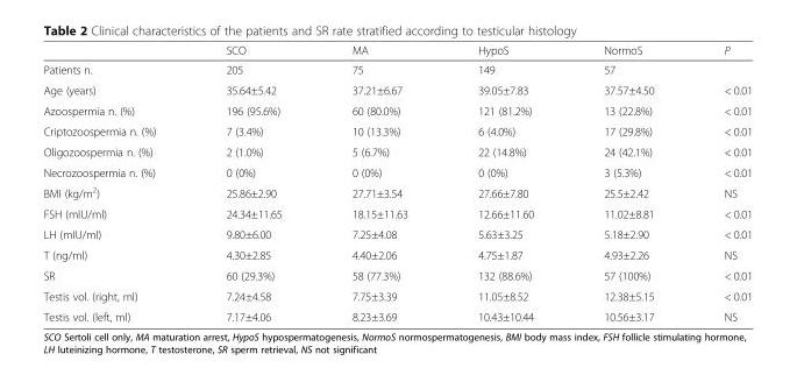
<table><thead><tr><td></td><td>SCO</td><td>MA</td><td>HypoS</td><td>NormoS</td><td>P</td></tr></thead><tbody><tr><td>Patients n.</td><td>205</td><td>75</td><td>149</td><td>57</td><td></td></tr><tr><td>Age (years)</td><td>35.64±5.42</td><td>37.21±6.67</td><td>39.05±7.83</td><td>37.57±4.50</td><td>&lt; 0.01</td></tr><tr><td>Azoospermia n. (%)</td><td>196 (95.6%)</td><td>60 (80.0%)</td><td>121 (81.2%)</td><td>13 (22.8%)</td><td>&lt; 0.01</td></tr><tr><td>Criptozoospermia n. (%)</td><td>7 (3.4%)</td><td>10 (13.3%)</td><td>6 (4.0%)</td><td>17 (29.8%)</td><td>&lt; 0.01</td></tr><tr><td>Oligozoospermia n. (%)</td><td>2 (1.0%)</td><td>5 (6.7%)</td><td>22 (14.8%)</td><td>24 (42.1%)</td><td>&lt; 0.01</td></tr><tr><td>Necrozoospermia n. (%)</td><td>0 (0%)</td><td>0 (0%)</td><td>0 (0%)</td><td>3 (5.3%)</td><td>&lt; 0.01</td></tr><tr><td>BMI (kg/m<sup>2</sup>)</td><td>25.86±2.90</td><td>27.71±3.54</td><td>27.66±7.80</td><td>25.5±2.42</td><td>NS</td></tr><tr><td>FSH (mIU/ml)</td><td>24.34±11.65</td><td>18.15±11.63</td><td>12.66±11.60</td><td>11.02±8.81</td><td>&lt; 0.01</td></tr><tr><td>LH (mIU/ml)</td><td>9.80±6.00</td><td>7.25±4.08</td><td>5.63±3.25</td><td>5.18±2.90</td><td>&lt; 0.01</td></tr><tr><td>T (ng/ml)</td><td>4.30±2.85</td><td>4.40±2.06</td><td>4.75±1.87</td><td>4.93±2.26</td><td>NS</td></tr><tr><td>SR</td><td>60 (29.3%)</td><td>58 (77.3%)</td><td>132 (88.6%)</td><td>57 (100%)</td><td>&lt; 0.01</td></tr><tr><td>Testis vol. (right, ml)</td><td>7.24±4.58</td><td>7.75±3.39</td><td>11.05±8.52</td><td>12.38±5.15</td><td>&lt; 0.01</td></tr><tr><td>Testis vol. (left, ml)</td><td>7.17±4.06</td><td>8.23±3.69</td><td>10.43±10.44</td><td>10.56±3.17</td><td>NS</td></tr></tbody></table>